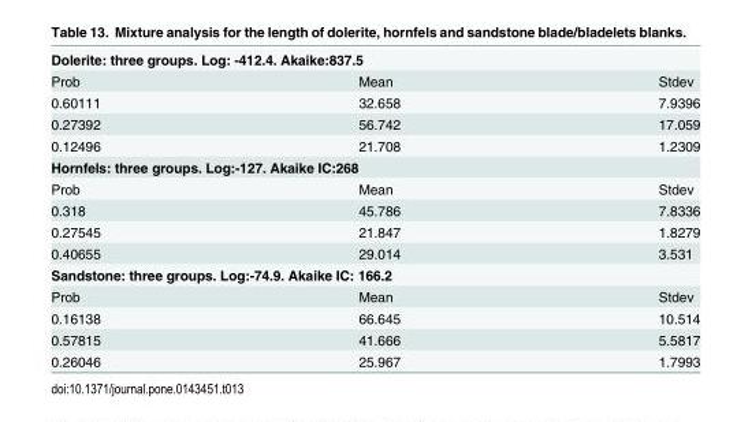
<table><tbody><tr><td colspan="3">Dolerite: three groups. Log: -412.4. Akaike:837.5</td></tr><tr><td>Prob</td><td>Mean</td><td>Stdev</td></tr><tr><td>0.60111</td><td>32.658</td><td>7.9396</td></tr><tr><td>0.27392</td><td>56.742</td><td>17.059</td></tr><tr><td>0.12496</td><td>21.708</td><td>1.2309</td></tr><tr><td colspan="3">Hornfels: three groups. Log:-127. Akaike IC:268</td></tr><tr><td>Prob</td><td>Mean</td><td>Stdev</td></tr><tr><td>0.318</td><td>45.786</td><td>7.8336</td></tr><tr><td>0.27545</td><td>21.847</td><td>1.8279</td></tr><tr><td>0.40655</td><td>29.014</td><td>3.531</td></tr><tr><td colspan="3">Sandstone: three groups. Log:-74.9. Akaike IC: 166.2</td></tr><tr><td>Prob</td><td>Mean</td><td>Stdev</td></tr><tr><td>0.16138</td><td>66.645</td><td>10.514</td></tr><tr><td>0.57815</td><td>41.666</td><td>5.5817</td></tr><tr><td>0.26046</td><td>25.967</td><td>1.7993</td></tr></tbody></table>